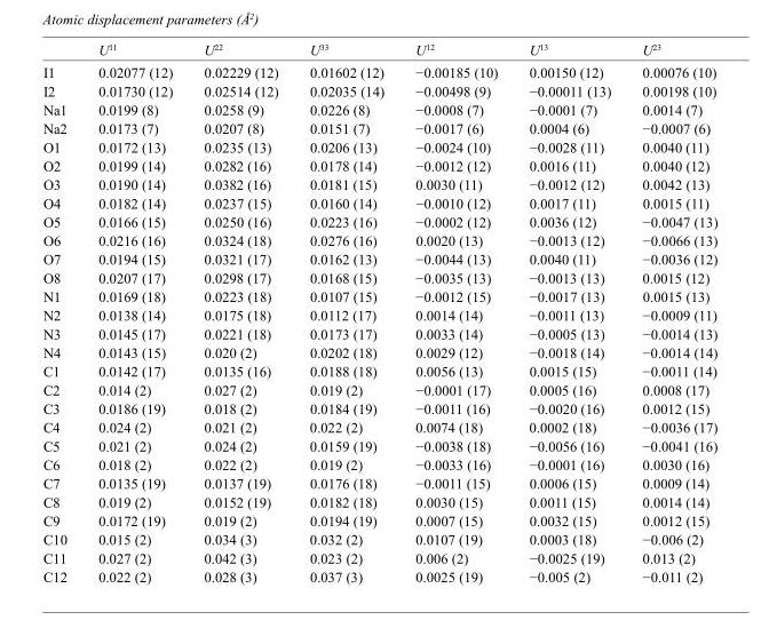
<table><thead><tr><td></td><td>U<sup>11</sup></td><td>U<sup>22</sup></td><td>U<sup>33</sup></td><td>U<sup>12</sup></td><td>U<sup>13</sup></td><td>U<sup>23</sup></td></tr></thead><tbody><tr><td>I1</td><td>0.02077 (12)</td><td>0.02229 (12)</td><td>0.01602 (12)</td><td>−0.00185 (10)</td><td>0.00150 (12)</td><td>0.00076 (10)</td></tr><tr><td>I2</td><td>0.01730 (12)</td><td>0.02514 (12)</td><td>0.02035 (14)</td><td>−0.00498 (9)</td><td>−0.00011 (13)</td><td>0.00198 (10)</td></tr><tr><td>Na1</td><td>0.0199 (8)</td><td>0.0258 (9)</td><td>0.0226 (8)</td><td>−0.0008 (7)</td><td>−0.0001 (7)</td><td>0.0014 (7)</td></tr><tr><td>Na2</td><td>0.0173 (7)</td><td>0.0207 (8)</td><td>0.0151 (7)</td><td>−0.0017 (6)</td><td>0.0004 (6)</td><td>−0.0007 (6)</td></tr><tr><td>O1</td><td>0.0172 (13)</td><td>0.0235 (13)</td><td>0.0206 (13)</td><td>−0.0024 (10)</td><td>−0.0028 (11)</td><td>0.0040 (11)</td></tr><tr><td>O2</td><td>0.0199 (14)</td><td>0.0282 (16)</td><td>0.0178 (14)</td><td>−0.0012 (12)</td><td>0.0016 (11)</td><td>0.0040 (12)</td></tr><tr><td>O3</td><td>0.0190 (14)</td><td>0.0382 (16)</td><td>0.0181 (15)</td><td>0.0030 (11)</td><td>−0.0012 (12)</td><td>0.0042 (13)</td></tr><tr><td>O4</td><td>0.0182 (14)</td><td>0.0237 (15)</td><td>0.0160 (14)</td><td>−0.0010 (12)</td><td>0.0017 (11)</td><td>0.0015 (11)</td></tr><tr><td>O5</td><td>0.0166 (15)</td><td>0.0250 (16)</td><td>0.0223 (16)</td><td>−0.0002 (12)</td><td>0.0036 (12)</td><td>−0.0047 (13)</td></tr><tr><td>O6</td><td>0.0216 (16)</td><td>0.0324 (18)</td><td>0.0276 (16)</td><td>0.0020 (13)</td><td>−0.0013 (12)</td><td>−0.0066 (13)</td></tr><tr><td>O7</td><td>0.0194 (15)</td><td>0.0321 (17)</td><td>0.0162 (13)</td><td>−0.0044 (13)</td><td>0.0040 (11)</td><td>−0.0036 (12)</td></tr><tr><td>O8</td><td>0.0207 (17)</td><td>0.0298 (17)</td><td>0.0168 (15)</td><td>−0.0035 (13)</td><td>−0.0013 (13)</td><td>0.0015 (12)</td></tr><tr><td>N1</td><td>0.0169 (18)</td><td>0.0223 (18)</td><td>0.0107 (15)</td><td>−0.0012 (15)</td><td>−0.0017 (13)</td><td>0.0015 (13)</td></tr><tr><td>N2</td><td>0.0138 (14)</td><td>0.0175 (18)</td><td>0.0112 (17)</td><td>0.0014 (14)</td><td>−0.0011 (13)</td><td>−0.0009 (11)</td></tr><tr><td>N3</td><td>0.0145 (17)</td><td>0.0221 (18)</td><td>0.0173 (17)</td><td>0.0033 (14)</td><td>−0.0005 (13)</td><td>−0.0014 (13)</td></tr><tr><td>N4</td><td>0.0143 (15)</td><td>0.020 (2)</td><td>0.0202 (18)</td><td>0.0029 (12)</td><td>−0.0018 (14)</td><td>−0.0014 (14)</td></tr><tr><td>C1</td><td>0.0142 (17)</td><td>0.0135 (16)</td><td>0.0188 (18)</td><td>0.0056 (13)</td><td>0.0015 (15)</td><td>−0.0011 (14)</td></tr><tr><td>C2</td><td>0.014 (2)</td><td>0.027 (2)</td><td>0.019 (2)</td><td>−0.0001 (17)</td><td>0.0005 (16)</td><td>0.0008 (17)</td></tr><tr><td>C3</td><td>0.0186 (19)</td><td>0.018 (2)</td><td>0.0184 (19)</td><td>−0.0011 (16)</td><td>−0.0020 (16)</td><td>0.0012 (15)</td></tr><tr><td>C4</td><td>0.024 (2)</td><td>0.021 (2)</td><td>0.022 (2)</td><td>0.0074 (18)</td><td>0.0002 (18)</td><td>−0.0036 (17)</td></tr><tr><td>C5</td><td>0.021 (2)</td><td>0.024 (2)</td><td>0.0159 (19)</td><td>−0.0038 (18)</td><td>−0.0056 (16)</td><td>−0.0041 (16)</td></tr><tr><td>C6</td><td>0.018 (2)</td><td>0.022 (2)</td><td>0.019 (2)</td><td>−0.0033 (16)</td><td>−0.0001 (16)</td><td>0.0030 (16)</td></tr><tr><td>C7</td><td>0.0135 (19)</td><td>0.0137 (19)</td><td>0.0176 (18)</td><td>−0.0011 (15)</td><td>0.0006 (15)</td><td>0.0009 (14)</td></tr><tr><td>C8</td><td>0.019 (2)</td><td>0.0152 (19)</td><td>0.0182 (18)</td><td>0.0030 (15)</td><td>0.0011 (15)</td><td>0.0014 (14)</td></tr><tr><td>C9</td><td>0.0172 (19)</td><td>0.019 (2)</td><td>0.0194 (19)</td><td>0.0007 (15)</td><td>0.0032 (15)</td><td>0.0012 (15)</td></tr><tr><td>C10</td><td>0.015 (2)</td><td>0.034 (3)</td><td>0.032 (2)</td><td>0.0107 (19)</td><td>0.0003 (18)</td><td>−0.006 (2)</td></tr><tr><td>C11</td><td>0.027 (2)</td><td>0.042 (3)</td><td>0.023 (2)</td><td>0.006 (2)</td><td>−0.0025 (19)</td><td>0.013 (2)</td></tr><tr><td>C12</td><td>0.022 (2)</td><td>0.028 (3)</td><td>0.037 (3)</td><td>0.0025 (19)</td><td>−0.005 (2)</td><td>−0.011 (2)</td></tr></tbody></table>